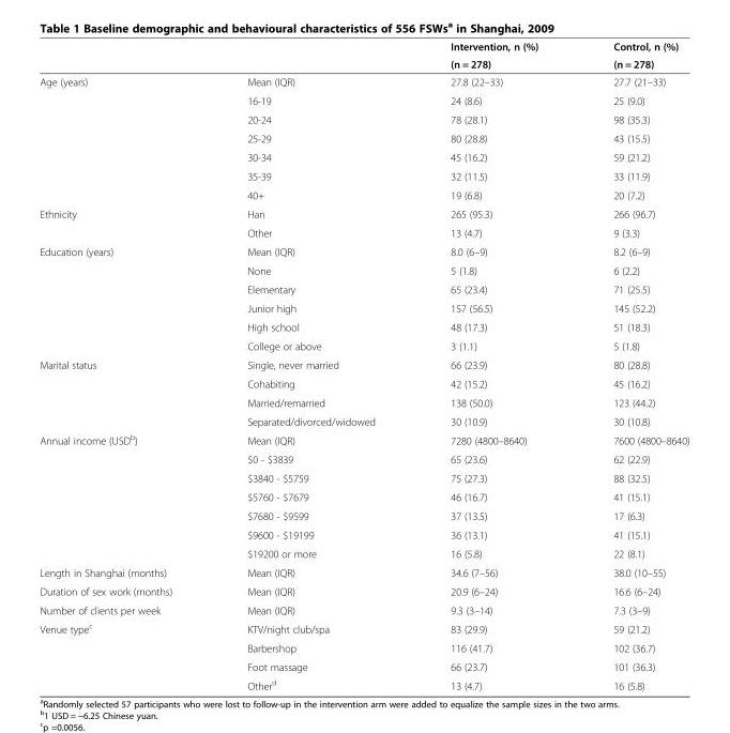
<table><thead><tr><td rowspan="2"></td><td rowspan="2"></td><td rowspan="2">Intervention, n (%) (n = 278)</td><td rowspan="2">Control, n (%) (n = 278)</td></tr><tr></tr></thead><tbody><tr><td rowspan="7">Age (years)</td><td>Mean (IQR)</td><td>27.8 (22–33)</td><td>27.7 (21–33)</td></tr><tr><td>16-19</td><td>24 (8.6)</td><td>25 (9.0)</td></tr><tr><td>20-24</td><td>78 (28.1)</td><td>98 (35.3)</td></tr><tr><td>25-29</td><td>80 (28.8)</td><td>43 (15.5)</td></tr><tr><td>30-34</td><td>45 (16.2)</td><td>59 (21.2)</td></tr><tr><td>35-39</td><td>32 (11.5)</td><td>33 (11.9)</td></tr><tr><td>40+</td><td>19 (6.8)</td><td>20 (7.2)</td></tr><tr><td rowspan="2">Ethnicity</td><td>Han</td><td>265 (95.3)</td><td>266 (96.7)</td></tr><tr><td>Other</td><td>13 (4.7)</td><td>9 (3.3)</td></tr><tr><td rowspan="6">Education (years)</td><td>Mean (IQR)</td><td>8.0 (6–9)</td><td>8.2 (6–9)</td></tr><tr><td>None</td><td>5 (1.8)</td><td>6 (2.2)</td></tr><tr><td>Elementary</td><td>65 (23.4)</td><td>71 (25.5)</td></tr><tr><td>Junior high</td><td>157 (56.5)</td><td>145 (52.2)</td></tr><tr><td>High school</td><td>48 (17.3)</td><td>51 (18.3)</td></tr><tr><td>College or above</td><td>3 (1.1)</td><td>5 (1.8)</td></tr><tr><td rowspan="4">Marital status</td><td>Single, never married</td><td>66 (23.9)</td><td>80 (28.8)</td></tr><tr><td>Cohabiting</td><td>42 (15.2)</td><td>45 (16.2)</td></tr><tr><td>Married/remarried</td><td>138 (50.0)</td><td>123 (44.2)</td></tr><tr><td>Separated/divorced/widowed</td><td>30 (10.9)</td><td>30 (10.8)</td></tr><tr><td rowspan="7">Annual income (USD<sup>b</sup>)</td><td>Mean (IQR)</td><td>7280 (4800–8640)</td><td>7600 (4800–8640)</td></tr><tr><td>$0 - $3839</td><td>65 (23.6)</td><td>62 (22.9)</td></tr><tr><td>$3840 - $5759</td><td>75 (27.3)</td><td>88 (32.5)</td></tr><tr><td>$5760 - $7679</td><td>46 (16.7)</td><td>41 (15.1)</td></tr><tr><td>$7680 - $9599</td><td>37 (13.5)</td><td>17 (6.3)</td></tr><tr><td>$9600 - $19199</td><td>36 (13.1)</td><td>41 (15.1)</td></tr><tr><td>$19200 or more</td><td>16 (5.8)</td><td>22 (8.1)</td></tr><tr><td>Length in Shanghai (months)</td><td>Mean (IQR)</td><td>34.6 (7–56)</td><td>38.0 (10–55)</td></tr><tr><td>Duration of sex work (months)</td><td>Mean (IQR)</td><td>20.9 (6–24)</td><td>16.6 (6–24)</td></tr><tr><td>Number of clients per week</td><td>Mean (IQR)</td><td>9.3 (3–14)</td><td>7.3 (3–9)</td></tr><tr><td rowspan="4">Venue type<sup>c</sup></td><td>KTV/night club/spa</td><td>83 (29.9)</td><td>59 (21.2)</td></tr><tr><td>Barbershop</td><td>116 (41.7)</td><td>102 (36.7)</td></tr><tr><td>Foot massage</td><td>66 (23.7)</td><td>101 (36.3)</td></tr><tr><td>Other<sup>d</sup></td><td>13 (4.7)</td><td>16 (5.8)</td></tr></tbody></table>